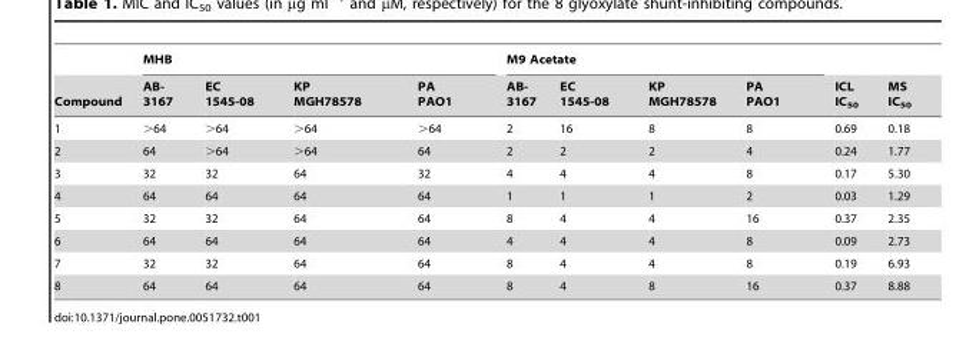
<table><thead><tr><td rowspan="2">Compound</td><td colspan="4">MHB</td><td colspan="4">M9 Acetate</td><td rowspan="2">ICL IC<sub>50</sub></td><td rowspan="2">MS IC<sub>50</sub></td></tr><tr><td>AB- 3167</td><td>EC 1545-08</td><td>KP MGH78578</td><td>PA PAO1</td><td>AB- 3167</td><td>EC 1545-08</td><td>KP MGH78578</td><td>PA PAO1</td></tr></thead><tbody><tr><td>1</td><td>&gt;64</td><td>&gt;64</td><td>&gt;64</td><td>&gt;64</td><td>2</td><td>16</td><td>8</td><td>8</td><td>0.69</td><td>0.18</td></tr><tr><td>2</td><td>64</td><td>&gt;64</td><td>&gt;64</td><td>64</td><td>2</td><td>2</td><td>2</td><td>4</td><td>0.24</td><td>1.77</td></tr><tr><td>3</td><td>32</td><td>32</td><td>64</td><td>32</td><td>4</td><td>4</td><td>4</td><td>8</td><td>0.17</td><td>5.30</td></tr><tr><td>4</td><td>64</td><td>64</td><td>64</td><td>64</td><td>1</td><td>1</td><td>1</td><td>2</td><td>0.03</td><td>1.29</td></tr><tr><td>5</td><td>32</td><td>32</td><td>64</td><td>64</td><td>8</td><td>4</td><td>4</td><td>16</td><td>0.37</td><td>2.35</td></tr><tr><td>6</td><td>64</td><td>64</td><td>64</td><td>64</td><td>4</td><td>4</td><td>4</td><td>8</td><td>0.09</td><td>2.73</td></tr><tr><td>7</td><td>32</td><td>32</td><td>64</td><td>64</td><td>8</td><td>4</td><td>4</td><td>8</td><td>0.19</td><td>6.93</td></tr><tr><td>8</td><td>64</td><td>64</td><td>64</td><td>64</td><td>8</td><td>4</td><td>8</td><td>16</td><td>0.37</td><td>8.88</td></tr></tbody></table>